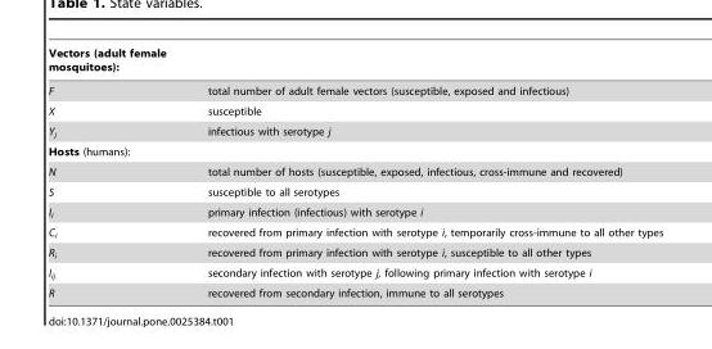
<table><thead><tr><td>Vectors (adult female mosquitoes):</td><td></td></tr></thead><tbody><tr><td>F</td><td>total number of adult female vectors (susceptible, exposed and infectious)</td></tr><tr><td>X</td><td>susceptible</td></tr><tr><td>Y<sub>j</sub></td><td>infectious with serotype j</td></tr><tr><td colspan="2">Hosts (humans):</td></tr><tr><td>N</td><td>total number of hosts (susceptible, exposed, infectious, cross-immune and recovered)</td></tr><tr><td>S</td><td>susceptible to all serotypes</td></tr><tr><td>I<sub>i</sub></td><td>primary infection (infectious) with serotype i</td></tr><tr><td>C<sub>i</sub></td><td>recovered from primary infection with serotype i, temporarily cross-immune to all other types</td></tr><tr><td>R<sub>i</sub></td><td>recovered from primary infection with serotype i, susceptible to all other types</td></tr><tr><td>I<sub>ij</sub></td><td>secondary infection with serotype j, following primary infection with serotype i</td></tr><tr><td>R</td><td>recovered from secondary infection, immune to all serotypes</td></tr></tbody></table>